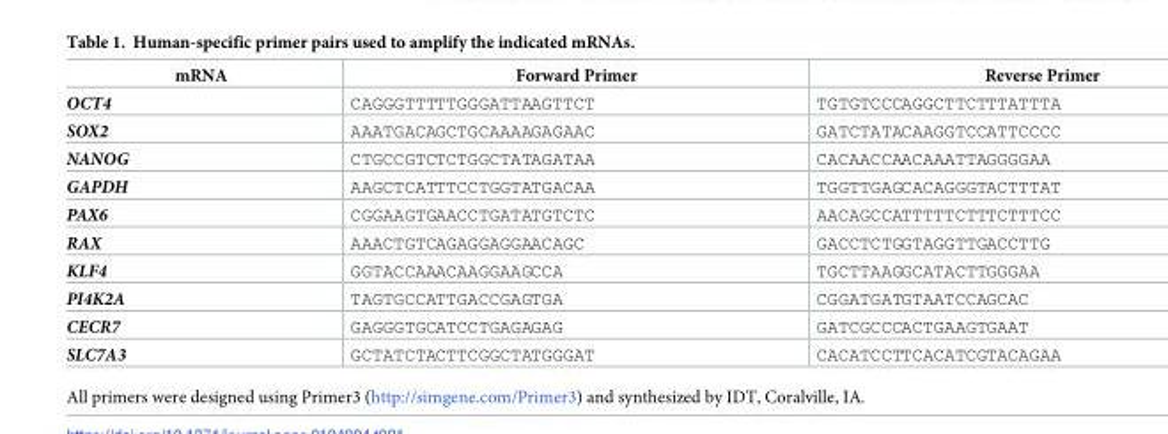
<table><thead><tr><td>mRNA</td><td>Forward Primer</td><td>Reverse Primer</td></tr></thead><tbody><tr><td>OCT4</td><td>CAGGGTTTTTGGGATTAAGTTCT</td><td>TGTGTCCCAGGCTTCTTTATTTA</td></tr><tr><td>SOX2</td><td>AAATGACAGCTGCAAAAGAGAAC</td><td>GATCTATACAAGGTCCATTCCCC</td></tr><tr><td>NANOG</td><td>CTGCCGTCTCTGGCTATAGATAA</td><td>CACAACCAACAAATTAGGGGAA</td></tr><tr><td>GAPDH</td><td>AAGCTCATTTCCTGGTATGACAA</td><td>TGGTTGAGCACAGGGTACTTTAT</td></tr><tr><td>PAX6</td><td>CGGAAGTGAACCTGATATGTCTC</td><td>AACAGCCATTTTTCTTTCTTTCC</td></tr><tr><td>RAX</td><td>AAACTGTCAGAGGAGGAACAGC</td><td>GACCTCTGGTAGGTTGACCTTG</td></tr><tr><td>KLF4</td><td>GGTACCAAACAAGGAAGCCA</td><td>TGCTTAAGGCATACTTGGGAA</td></tr><tr><td>PI4K2A</td><td>TAGTGCCATTGACCGAGTGA</td><td>CGGATGATGTAATCCAGCAC</td></tr><tr><td>CECR7</td><td>GAGGGTGCATCCTGAGAGAG</td><td>GATCGCCCACTGAAGTGAAT</td></tr><tr><td>SLC7A3</td><td>GCTATCTACTTCGGCTATGGGAT</td><td>CACATCCTTCACATCGTACAGAA</td></tr></tbody></table>